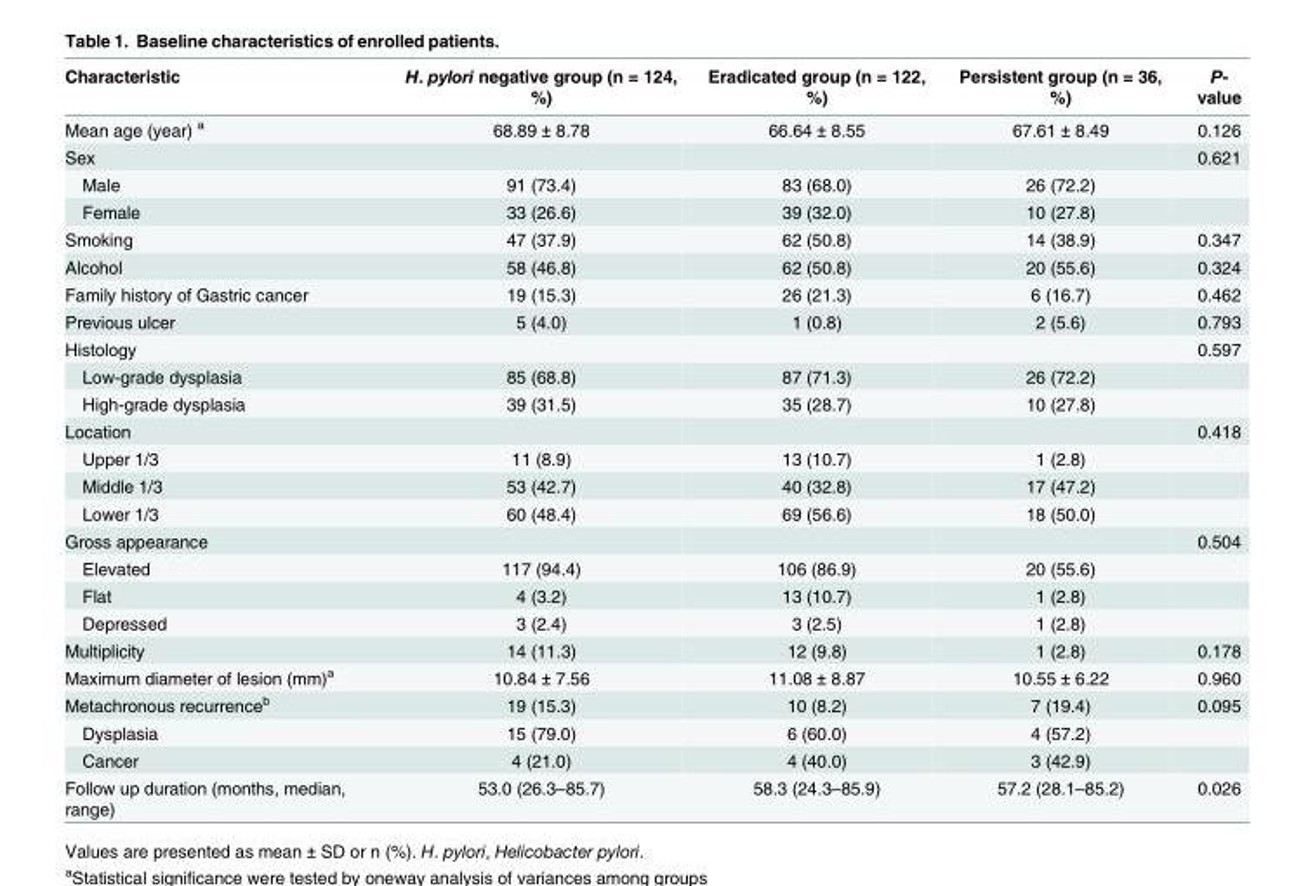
<table><thead><tr><td>Characteristic</td><td>H. pylori negative group (n = 124, %)</td><td>Eradicated group (n = 122, %)</td><td>Persistent group (n = 36, %)</td><td>P- value</td></tr></thead><tbody><tr><td>Mean age (year) <sup>a</sup></td><td>68.89 ± 8.78</td><td>66.64 ± 8.55</td><td>67.61 ± 8.49</td><td>0.126</td></tr><tr><td>Sex</td><td></td><td></td><td></td><td>0.621</td></tr><tr><td>Male</td><td>91 (73.4)</td><td>83 (68.0)</td><td>26 (72.2)</td><td></td></tr><tr><td>Female</td><td>33 (26.6)</td><td>39 (32.0)</td><td>10 (27.8)</td><td></td></tr><tr><td>Smoking</td><td>47 (37.9)</td><td>62 (50.8)</td><td>14 (38.9)</td><td>0.347</td></tr><tr><td>Alcohol</td><td>58 (46.8)</td><td>62 (50.8)</td><td>20 (55.6)</td><td>0.324</td></tr><tr><td>Family history of Gastric cancer</td><td>19 (15.3)</td><td>26 (21.3)</td><td>6 (16.7)</td><td>0.462</td></tr><tr><td>Previous ulcer</td><td>5 (4.0)</td><td>1 (0.8)</td><td>2 (5.6)</td><td>0.793</td></tr><tr><td>Histology</td><td></td><td></td><td></td><td>0.597</td></tr><tr><td>Low-grade dysplasia</td><td>85 (68.8)</td><td>87 (71.3)</td><td>26 (72.2)</td><td></td></tr><tr><td>High-grade dysplasia</td><td>39 (31.5)</td><td>35 (28.7)</td><td>10 (27.8)</td><td></td></tr><tr><td>Location</td><td></td><td></td><td></td><td>0.418</td></tr><tr><td>Upper 1/3</td><td>11 (8.9)</td><td>13 (10.7)</td><td>1 (2.8)</td><td></td></tr><tr><td>Middle 1/3</td><td>53 (42.7)</td><td>40 (32.8)</td><td>17 (47.2)</td><td></td></tr><tr><td>Lower 1/3</td><td>60 (48.4)</td><td>69 (56.6)</td><td>18 (50.0)</td><td></td></tr><tr><td>Gross appearance</td><td></td><td></td><td></td><td>0.504</td></tr><tr><td>Elevated</td><td>117 (94.4)</td><td>106 (86.9)</td><td>20 (55.6)</td><td></td></tr><tr><td>Flat</td><td>4 (3.2)</td><td>13 (10.7)</td><td>1 (2.8)</td><td></td></tr><tr><td>Depressed</td><td>3 (2.4)</td><td>3 (2.5)</td><td>1 (2.8)</td><td></td></tr><tr><td>Multiplicity</td><td>14 (11.3)</td><td>12 (9.8)</td><td>1 (2.8)</td><td>0.178</td></tr><tr><td>Maximum diameter of lesion (mm)<sup>a</sup></td><td>10.84 ± 7.56</td><td>11.08 ± 8.87</td><td>10.55 ± 6.22</td><td>0.960</td></tr><tr><td>Metachronous recurrence<sup>b</sup></td><td>19 (15.3)</td><td>10 (8.2)</td><td>7 (19.4)</td><td>0.095</td></tr><tr><td>Dysplasia</td><td>15 (79.0)</td><td>6 (60.0)</td><td>4 (57.2)</td><td></td></tr><tr><td>Cancer</td><td>4 (21.0)</td><td>4 (40.0)</td><td>3 (42.9)</td><td></td></tr><tr><td>Follow up duration (months, median, range)</td><td>53.0 (26.3–85.7)</td><td>58.3 (24.3–85.9)</td><td>57.2 (28.1–85.2)</td><td>0.026</td></tr></tbody></table>